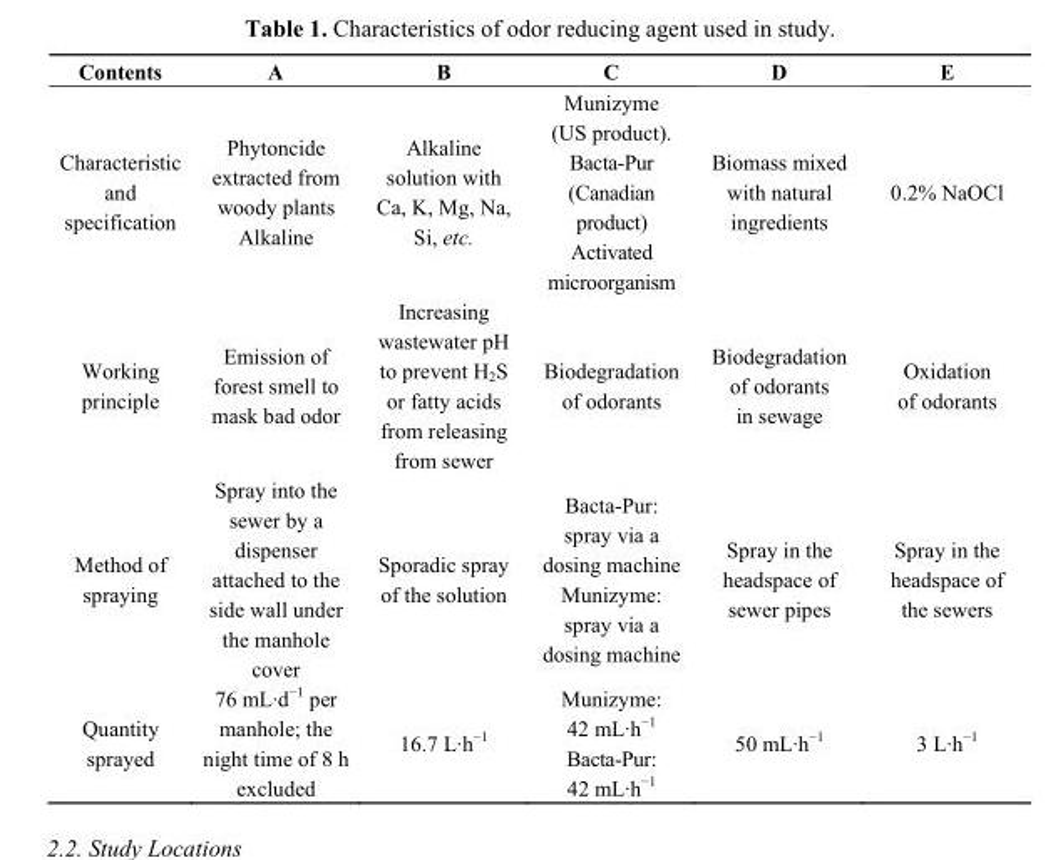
<table><thead><tr><td>Contents</td><td>A</td><td>B</td><td>C</td><td>D</td><td>E</td></tr></thead><tbody><tr><td>Characteristic and specification</td><td>Phytoncide extracted from woody plants Alkaline</td><td>Alkaline solution with Ca, K, Mg, Na, Si, etc.</td><td>Munizyme (US product). Bacta-Pur (Canadian product) Activated microorganism</td><td>Biomass mixed with natural ingredients</td><td>0.2% NaOCl</td></tr><tr><td>Working principle</td><td>Emission of forest smell to mask bad odor</td><td>Increasing wastewater pH to prevent H<sub>2</sub>S or fatty acids from releasing from sewer</td><td>Biodegradation of odorants</td><td>Biodegradation of odorants in sewage</td><td>Oxidation of odorants</td></tr><tr><td>Method of spraying</td><td>Spray into the sewer by a dispenser attached to the side wall under the manhole cover</td><td>Sporadic spray of the solution</td><td>Bacta-Pur: spray via a dosing machine Munizyme: spray via a dosing machine</td><td>Spray in the headspace of sewer pipes</td><td>Spray in the headspace of the sewers</td></tr><tr><td>Quantity sprayed</td><td>76 mL·d<sup>−1</sup> per manhole; the night time of 8 h excluded</td><td>16.7 L·h<sup>−1</sup></td><td>Munizyme: 42 mL·h<sup>−1</sup> Bacta-Pur: 42 mL·h<sup>−1</sup></td><td>50 mL·h<sup>−1</sup></td><td>3 L·h<sup>−1</sup></td></tr></tbody></table>